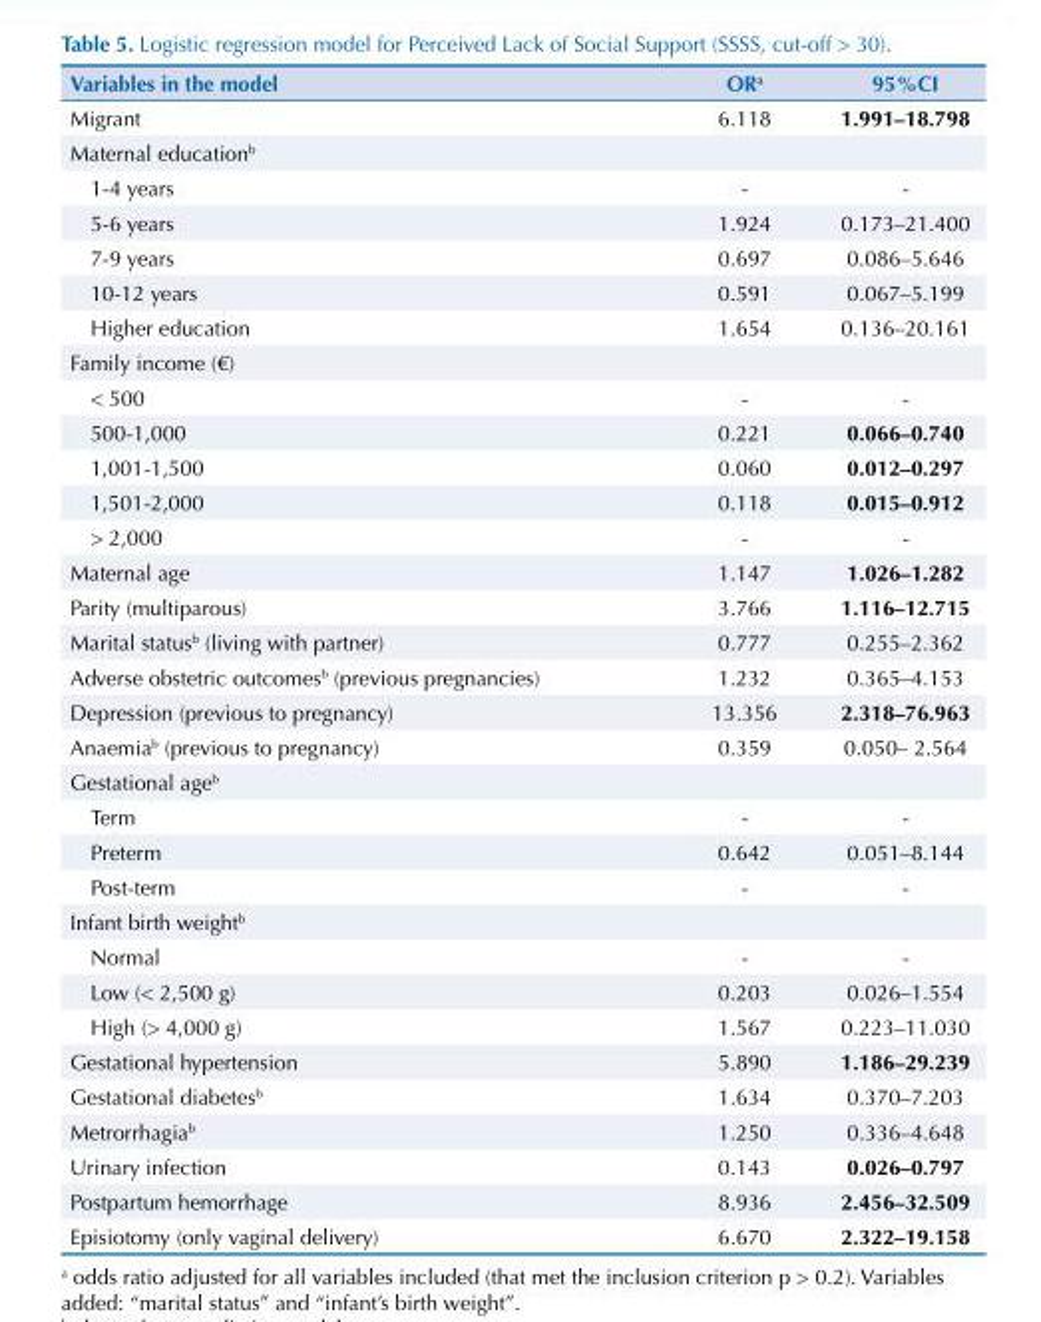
<table><thead><tr><td>Variables in the model</td><td>OR<sup>a</sup></td><td>95%CI</td></tr></thead><tbody><tr><td>Migrant</td><td>6.118</td><td>1.991–18.798</td></tr><tr><td colspan="3">Maternal education<sup>b</sup></td></tr><tr><td>1-4 years</td><td>-</td><td>-</td></tr><tr><td>5-6 years</td><td>1.924</td><td>0.173–21.400</td></tr><tr><td>7-9 years</td><td>0.697</td><td>0.086–5.646</td></tr><tr><td>10-12 years</td><td>0.591</td><td>0.067–5.199</td></tr><tr><td>Higher education</td><td>1.654</td><td>0.136–20.161</td></tr><tr><td colspan="3">Family income (€)</td></tr><tr><td>&lt; 500</td><td>-</td><td>-</td></tr><tr><td>500-1,000</td><td>0.221</td><td>0.066–0.740</td></tr><tr><td>1,001-1,500</td><td>0.060</td><td>0.012–0.297</td></tr><tr><td>1,501-2,000</td><td>0.118</td><td>0.015–0.912</td></tr><tr><td>&gt; 2,000</td><td>-</td><td>-</td></tr><tr><td>Maternal age</td><td>1.147</td><td>1.026–1.282</td></tr><tr><td>Parity (multiparous)</td><td>3.766</td><td>1.116–12.715</td></tr><tr><td>Marital status<sup>b</sup> (living with partner)</td><td>0.777</td><td>0.255–2.362</td></tr><tr><td>Adverse obstetric outcomes<sup>b</sup> (previous pregnancies)</td><td>1.232</td><td>0.365–4.153</td></tr><tr><td>Depression (previous to pregnancy)</td><td>13.356</td><td>2.318–76.963</td></tr><tr><td>Anaemia<sup>b</sup> (previous to pregnancy)</td><td>0.359</td><td>0.050– 2.564</td></tr><tr><td colspan="3">Gestational age<sup>b</sup></td></tr><tr><td>Term</td><td>-</td><td>-</td></tr><tr><td>Preterm</td><td>0.642</td><td>0.051–8.144</td></tr><tr><td>Post-term</td><td>-</td><td>-</td></tr><tr><td colspan="3">Infant birth weight<sup>b</sup></td></tr><tr><td>Normal</td><td>-</td><td>-</td></tr><tr><td>Low (&lt; 2,500 g)</td><td>0.203</td><td>0.026–1.554</td></tr><tr><td>High (&gt; 4,000 g)</td><td>1.567</td><td>0.223–11.030</td></tr><tr><td>Gestational hypertension</td><td>5.890</td><td>1.186–29.239</td></tr><tr><td>Gestational diabetes<sup>b</sup></td><td>1.634</td><td>0.370–7.203</td></tr><tr><td>Metrorrhagia<sup>b</sup></td><td>1.250</td><td>0.336–4.648</td></tr><tr><td>Urinary infection</td><td>0.143</td><td>0.026–0.797</td></tr><tr><td>Postpartum hemorrhage</td><td>8.936</td><td>2.456–32.509</td></tr><tr><td>Episiotomy (only vaginal delivery)</td><td>6.670</td><td>2.322–19.158</td></tr></tbody></table>